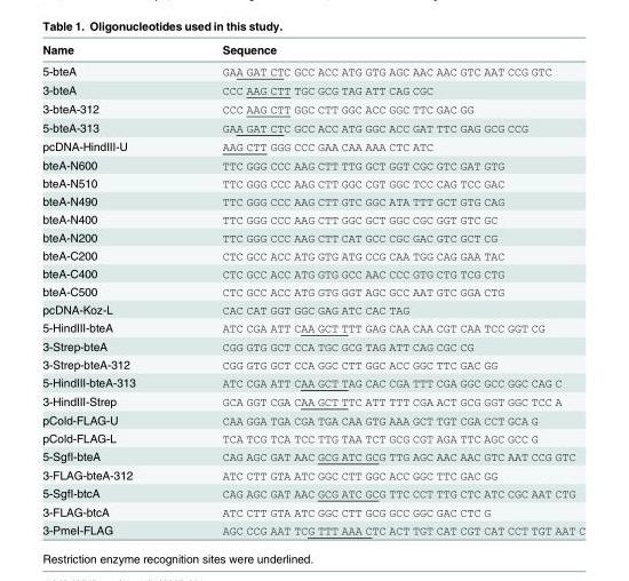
<table><thead><tr><td>Name</td><td>Sequence</td></tr></thead><tbody><tr><td>5-bteA</td><td>GAA GAT CTC GCC ACC ATG GTG AGC AAC AAC GTC AAT CCG GTC</td></tr><tr><td>3-bteA</td><td>CCC AAG CTT TGC GCG TAG ATT CAG CGC</td></tr><tr><td>3-bteA-312</td><td>CCC AAG CTT GGC CTT GGC ACC GGC TTC GAC GG</td></tr><tr><td>5-bteA-313</td><td>GAA GAT CTC GCC ACC ATG GGC ACC GAT TTC GAG GCG CCG</td></tr><tr><td>pcDNA-HindIII-U</td><td>AAG CTT GGG CCC GAA CAA AAA CTC ATC</td></tr><tr><td>bteA-N600</td><td>TTC GGG CCC AAG CTT TTG GCT GGT CGC GTC GAT GTG</td></tr><tr><td>bteA-N510</td><td>TTC GGG CCC AAG CTT GGC CGT GGC TCC CAG TCC GAC</td></tr><tr><td>bteA-N490</td><td>TTC GGG CCC AAG CTT GTC GGC ATA TTT GCT GTG CAG</td></tr><tr><td>bteA-N400</td><td>TTC GGG CCC AAG CTT GGC GCT GGC CGC GGT GTC GC</td></tr><tr><td>bteA-N200</td><td>TTC GGG CCC AAG CTT CAT GCC CGC GAC GTC GCT CG</td></tr><tr><td>bteA-C200</td><td>CTC GCC ACC ATG GTG ATG CCG CAA TGG CAG GAA TAC</td></tr><tr><td>bteA-C400</td><td>CTC GCC ACC ATG GTG GCC AAC CCC GTG CTG TCG CTG</td></tr><tr><td>bteA-C500</td><td>CTC GCC ACC ATG GTG GGT AGC GCC AAT GTC GGA CTG</td></tr><tr><td>pcDNA-Koz-L</td><td>CAC CAT GGT GGC GAG ATC CAC TAG</td></tr><tr><td>5-HindIII-bteA</td><td>ATC CGA ATT CAA GCT TTT GAG CAA CAA CGT CAA TCC GGT CG</td></tr><tr><td>3-Strep-bteA</td><td>CGG GTG GCT CCA TGC GCG TAG ATT CAG CGC CG</td></tr><tr><td>3-Strep-bteA-312</td><td>CGG GTG GCT CCA GGC CTT GGC ACC GGC TTC GAC GG</td></tr><tr><td>5-HindIII-bteA-313</td><td>ATC CGA ATT CAA GCT TAG CAC CGA TTT CGA GGC GCC GGC CAG C</td></tr><tr><td>3-HindIII-Strep</td><td>GCA GGT CGA CAA GCT TTC ATT TTT CGA ACT GCG GGT GGC TCC A</td></tr><tr><td>pCold-FLAG-U</td><td>CAA GGA TGA CGA TGA CAA GTG AAA GCT TGT CGA CCT GCA G</td></tr><tr><td>pCold-FLAG-L</td><td>TCA TCG TCA TCC TTG TAA TCT GCG CGT AGA TTC AGC GCC G</td></tr><tr><td>5-SgfI-bteA</td><td>CAG AGC GAT AAC GCG ATC GCG TTG AGC AAC AAC GTC AAT CCG GTC</td></tr><tr><td>3-FLAG-bteA-312</td><td>ATC CTT GTA ATC GGC CTT GGC ACC GGC TTC GAC GG</td></tr><tr><td>5-SgfI-btcA</td><td>CAG AGC GAT AAC GCG ATC GCG TTC CCT TTG CTC ATC CGC AAT CTG</td></tr><tr><td>3-FLAG-btcA</td><td>ATC CTT GTA ATC GGC CTT GCG GCC GGC GAC CTC G</td></tr><tr><td>3-PmeI-FLAG</td><td>AGC CCG AAT TCG TTT AAA CTC ACT TGT CAT CGT CAT CCT TGT AAT C</td></tr></tbody></table>